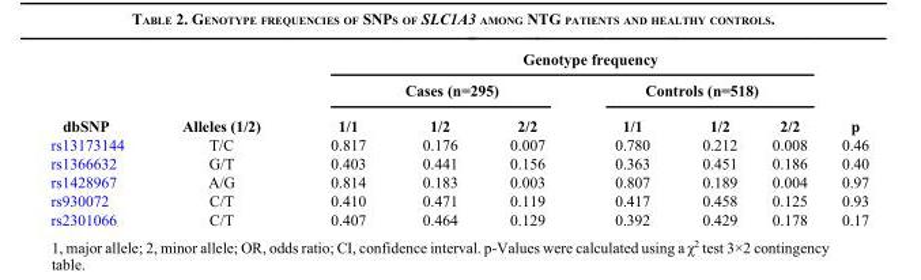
<table><thead><tr><td rowspan="3">dbSNP</td><td rowspan="3">Alleles (1/2)</td><td colspan="6">Genotype frequency</td><td rowspan="3">p</td></tr><tr><td colspan="3">Cases (n=295)</td><td colspan="3">Controls (n=518)</td></tr><tr><td>1/1</td><td>1/2</td><td>2/2</td><td>1/1</td><td>1/2</td><td>2/2</td></tr></thead><tbody><tr><td>rs13173144</td><td>T/C</td><td>0.817</td><td>0.176</td><td>0.007</td><td>0.780</td><td>0.212</td><td>0.008</td><td>0.46</td></tr><tr><td>rs1366632</td><td>G/T</td><td>0.403</td><td>0.441</td><td>0.156</td><td>0.363</td><td>0.451</td><td>0.186</td><td>0.40</td></tr><tr><td>rs1428967</td><td>A/G</td><td>0.814</td><td>0.183</td><td>0.003</td><td>0.807</td><td>0.189</td><td>0.004</td><td>0.97</td></tr><tr><td>rs930072</td><td>C/T</td><td>0.410</td><td>0.471</td><td>0.119</td><td>0.417</td><td>0.458</td><td>0.125</td><td>0.93</td></tr><tr><td>rs2301066</td><td>C/T</td><td>0.407</td><td>0.464</td><td>0.129</td><td>0.392</td><td>0.429</td><td>0.178</td><td>0.17</td></tr></tbody></table>